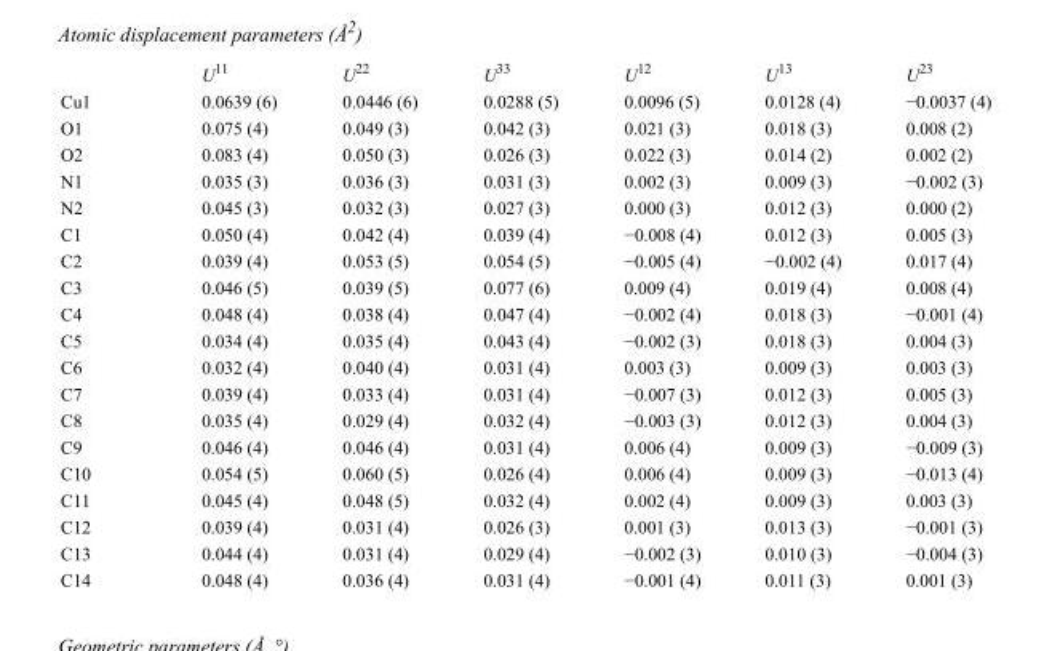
<table><thead><tr><td></td><td>U<sup>11</sup></td><td>U<sup>22</sup></td><td>U<sup>33</sup></td><td>U<sup>12</sup></td><td>U<sup>13</sup></td><td>U<sup>23</sup></td></tr></thead><tbody><tr><td>Cu1</td><td>0.0639 (6)</td><td>0.0446 (6)</td><td>0.0288 (5)</td><td>0.0096 (5)</td><td>0.0128 (4)</td><td>−0.0037 (4)</td></tr><tr><td>O1</td><td>0.075 (4)</td><td>0.049 (3)</td><td>0.042 (3)</td><td>0.021 (3)</td><td>0.018 (3)</td><td>0.008 (2)</td></tr><tr><td>O2</td><td>0.083 (4)</td><td>0.050 (3)</td><td>0.026 (3)</td><td>0.022 (3)</td><td>0.014 (2)</td><td>0.002 (2)</td></tr><tr><td>N1</td><td>0.035 (3)</td><td>0.036 (3)</td><td>0.031 (3)</td><td>0.002 (3)</td><td>0.009 (3)</td><td>−0.002 (3)</td></tr><tr><td>N2</td><td>0.045 (3)</td><td>0.032 (3)</td><td>0.027 (3)</td><td>0.000 (3)</td><td>0.012 (3)</td><td>0.000 (2)</td></tr><tr><td>C1</td><td>0.050 (4)</td><td>0.042 (4)</td><td>0.039 (4)</td><td>−0.008 (4)</td><td>0.012 (3)</td><td>0.005 (3)</td></tr><tr><td>C2</td><td>0.039 (4)</td><td>0.053 (5)</td><td>0.054 (5)</td><td>−0.005 (4)</td><td>−0.002 (4)</td><td>0.017 (4)</td></tr><tr><td>C3</td><td>0.046 (5)</td><td>0.039 (5)</td><td>0.077 (6)</td><td>0.009 (4)</td><td>0.019 (4)</td><td>0.008 (4)</td></tr><tr><td>C4</td><td>0.048 (4)</td><td>0.038 (4)</td><td>0.047 (4)</td><td>−0.002 (4)</td><td>0.018 (3)</td><td>−0.001 (4)</td></tr><tr><td>C5</td><td>0.034 (4)</td><td>0.035 (4)</td><td>0.043 (4)</td><td>−0.002 (3)</td><td>0.018 (3)</td><td>0.004 (3)</td></tr><tr><td>C6</td><td>0.032 (4)</td><td>0.040 (4)</td><td>0.031 (4)</td><td>0.003 (3)</td><td>0.009 (3)</td><td>0.003 (3)</td></tr><tr><td>C7</td><td>0.039 (4)</td><td>0.033 (4)</td><td>0.031 (4)</td><td>−0.007 (3)</td><td>0.012 (3)</td><td>0.005 (3)</td></tr><tr><td>C8</td><td>0.035 (4)</td><td>0.029 (4)</td><td>0.032 (4)</td><td>−0.003 (3)</td><td>0.012 (3)</td><td>0.004 (3)</td></tr><tr><td>C9</td><td>0.046 (4)</td><td>0.046 (4)</td><td>0.031 (4)</td><td>0.006 (4)</td><td>0.009 (3)</td><td>−0.009 (3)</td></tr><tr><td>C10</td><td>0.054 (5)</td><td>0.060 (5)</td><td>0.026 (4)</td><td>0.006 (4)</td><td>0.009 (3)</td><td>−0.013 (4)</td></tr><tr><td>C11</td><td>0.045 (4)</td><td>0.048 (5)</td><td>0.032 (4)</td><td>0.002 (4)</td><td>0.009 (3)</td><td>0.003 (3)</td></tr><tr><td>C12</td><td>0.039 (4)</td><td>0.031 (4)</td><td>0.026 (3)</td><td>0.001 (3)</td><td>0.013 (3)</td><td>−0.001 (3)</td></tr><tr><td>C13</td><td>0.044 (4)</td><td>0.031 (4)</td><td>0.029 (4)</td><td>−0.002 (3)</td><td>0.010 (3)</td><td>−0.004 (3)</td></tr><tr><td>C14</td><td>0.048 (4)</td><td>0.036 (4)</td><td>0.031 (4)</td><td>−0.001 (4)</td><td>0.011 (3)</td><td>0.001 (3)</td></tr></tbody></table>